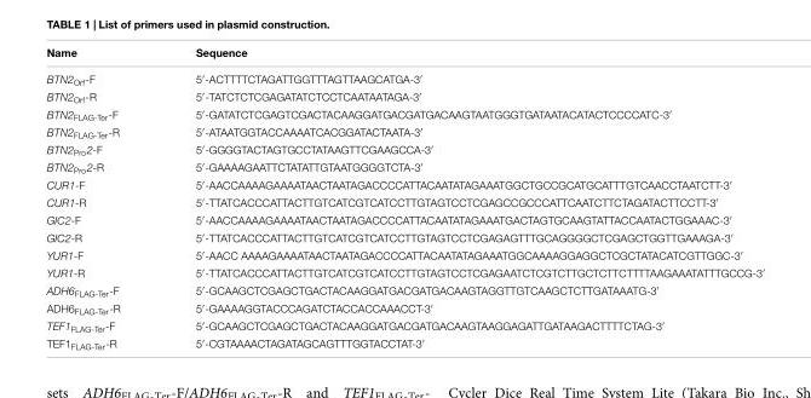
<table><thead><tr><td>Name</td><td>Sequence</td></tr></thead><tbody><tr><td>BTN2<sub>Orf</sub>-F</td><td>5′-ACTTTTCTAGATTGGTTTAGTTAAGCATGA-3′</td></tr><tr><td>BTN2<sub>Orf</sub>-R</td><td>5′-TATCTCTCGAGATATCTCCTCAATAATAGA-3′</td></tr><tr><td>BTN2<sub>FLAG-Ter</sub>-F</td><td>5′-GATATCTCGAGTCGACTACAAGGATGACGATGACAAGTAATGGGTGATAATACATACTCCCCATC-3′</td></tr><tr><td>BTN2<sub>FLAG-Ter</sub>-R</td><td>5′-ATAATGGTACCAAAATCACGGATACTAATA-3′</td></tr><tr><td>BTN2<sub>Pro</sub>2-F</td><td>5′-GGGGTACTAGTGCCTATAAGTTCGAAGCCA-3′</td></tr><tr><td>BTN2<sub>Pro</sub>2-R</td><td>5′-GAAAAGAATTCTATATTGTAATGGGGTCTA-3′</td></tr><tr><td>CUR1-F</td><td>5′-AACCAAAAGAAAATAACTAATAGACCCCATTACAATATAGAAATGGCTGCCGCATGCATTTGTCAACCTAATCTT-3′</td></tr><tr><td>CUR1-R</td><td>5′-TTATCACCCATTACTTGTCATCGTCATCCTTGTAGTCCTCGAGCCGCCCATTCAATCTTCTAGATACTTCCTT-3′</td></tr><tr><td>GIC2-F</td><td>5′-AACCAAAAGAAAATAACTAATAGACCCCATTACAATATAGAAATGACTAGTGCAAGTATTACCAATACTGGAAAC-3′</td></tr><tr><td>GIC2-R</td><td>5′-TTATCACCCATTACTTGTCATCGTCATCCTTGTAGTCCTCGAGAGTTTGCAGGGGCTCGAGCTGGTTGAAAGA-3′</td></tr><tr><td>YUR1-F</td><td>5′-AACC AAAAGAAAATAACTAATAGACCCCATTACAATATAGAAATGGCAAAAGGAGGCTCGCTATACATCGTTGGC-3′</td></tr><tr><td>YUR1-R</td><td>5′-TTATCACCCATTACTTGTCATCGTCATCCTTGTAGTCCTCGAGAATCTCGTCTTGCTCTTCTTTTAAGAAATATTTGCCG-3′</td></tr><tr><td>ADH6<sub>FLAG-Ter</sub>-F</td><td>5′-GCAAGCTCGAGCTGACTACAAGGATGACGATGACAAGTAGGTTGTCAAGCTCTTGATAAATG-3′</td></tr><tr><td>ADH6<sub>FLAG-Ter</sub>-R</td><td>5′-GAAAAGGTACCCAGATCTACCACCAAACCT-3′</td></tr><tr><td>TEF1<sub>FLAG-Ter</sub>-F</td><td>5′-GCAAGCTCGAGCTGACTACAAGGATGACGATGACAAGTAAGGAGATTGATAAGACTTTTCTAG-3′</td></tr><tr><td>TEF1<sub>FLAG-Ter</sub>-R</td><td>5′-CGTAAAACTAGATAGCAGTTTGGTACCTAT-3′</td></tr></tbody></table>